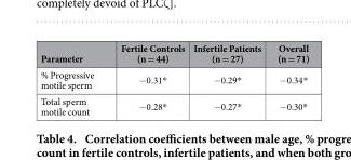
<table><thead><tr><td>Parameter</td><td>Fertile Controls (n = 44)</td><td>Infertile Patients (n = 27)</td><td>Overall (n = 71)</td></tr></thead><tbody><tr><td>% Progressive motile sperm</td><td>− 0.31*</td><td>− 0.29*</td><td>− 0.34*</td></tr><tr><td>Total sperm motile count</td><td>− 0.28*</td><td>− 0.27*</td><td>− 0.30*</td></tr></tbody></table>